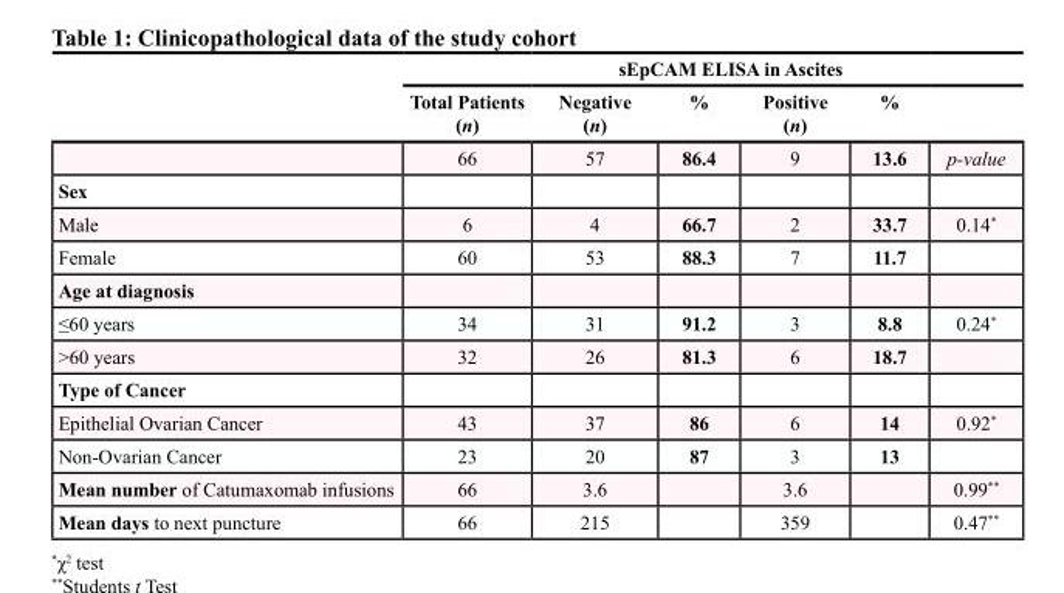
<table><thead><tr><td rowspan="2"></td><td colspan="6">sEpCAM ELISA in Ascites</td></tr><tr><td>Total Patients (n)</td><td>Negative (n)</td><td>%</td><td>Positive (n)</td><td>%</td><td></td></tr></thead><tbody><tr><td></td><td>66</td><td>57</td><td>86.4</td><td>9</td><td>13.6</td><td>p-value</td></tr><tr><td colspan="7">Sex</td></tr><tr><td>Male</td><td>6</td><td>4</td><td>66.7</td><td>2</td><td>33.7</td><td>0.14*</td></tr><tr><td>Female</td><td>60</td><td>53</td><td>88.3</td><td>7</td><td>11.7</td><td></td></tr><tr><td colspan="7">Age at diagnosis</td></tr><tr><td>≤60 years</td><td>34</td><td>31</td><td>91.2</td><td>3</td><td>8.8</td><td>0.24*</td></tr><tr><td>&gt;60 years</td><td>32</td><td>26</td><td>81.3</td><td>6</td><td>18.7</td><td></td></tr><tr><td colspan="7">Type of Cancer</td></tr><tr><td>Epithelial Ovarian Cancer</td><td>43</td><td>37</td><td>86</td><td>6</td><td>14</td><td>0.92*</td></tr><tr><td>Non-Ovarian Cancer</td><td>23</td><td>20</td><td>87</td><td>3</td><td>13</td><td></td></tr><tr><td>Mean number of Catumaxomab infusions</td><td>66</td><td>3.6</td><td></td><td>3.6</td><td></td><td>0.99**</td></tr><tr><td>Mean days to next puncture</td><td>66</td><td>215</td><td></td><td>359</td><td></td><td>0.47**</td></tr></tbody></table>